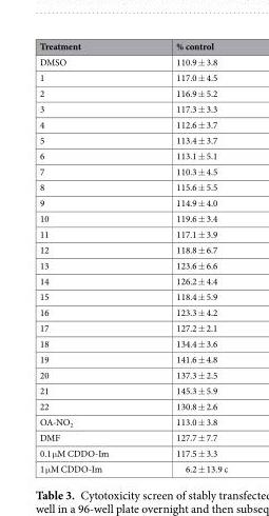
<table><thead><tr><td>Treatment</td><td>% control</td></tr></thead><tbody><tr><td>DMSO</td><td>110.9 ± 3.8</td></tr><tr><td>1</td><td>117.0 ± 4.5</td></tr><tr><td>2</td><td>116.9 ± 5.2</td></tr><tr><td>3</td><td>117.3 ± 3.3</td></tr><tr><td>4</td><td>112.6 ± 3.7</td></tr><tr><td>5</td><td>113.4 ± 3.7</td></tr><tr><td>6</td><td>113.1 ± 5.1</td></tr><tr><td>7</td><td>110.3 ± 4.5</td></tr><tr><td>8</td><td>115.6 ± 5.5</td></tr><tr><td>9</td><td>114.9 ± 4.0</td></tr><tr><td>10</td><td>119.6 ± 3.4</td></tr><tr><td>11</td><td>117.1 ± 3.9</td></tr><tr><td>12</td><td>118.8 ± 6.7</td></tr><tr><td>13</td><td>123.6 ± 6.6</td></tr><tr><td>14</td><td>126.2 ± 4.4</td></tr><tr><td>15</td><td>118.4 ± 5.9</td></tr><tr><td>16</td><td>123.3 ± 4.2</td></tr><tr><td>17</td><td>127.2 ± 2.1</td></tr><tr><td>18</td><td>134.4 ± 3.6</td></tr><tr><td>19</td><td>141.6 ± 4.8</td></tr><tr><td>20</td><td>137.3 ± 2.5</td></tr><tr><td>21</td><td>145.3 ± 5.9</td></tr><tr><td>22</td><td>130.8 ± 2.6</td></tr><tr><td>OA-NO<sub>2</sub></td><td>113.0 ± 3.8</td></tr><tr><td>DMF</td><td>127.7 ± 7.7</td></tr><tr><td>0.1 μM CDDO-Im</td><td>117.5 ± 3.3</td></tr><tr><td>1 μM CDDO-Im</td><td>6.2 ± 13.9 c</td></tr></tbody></table>